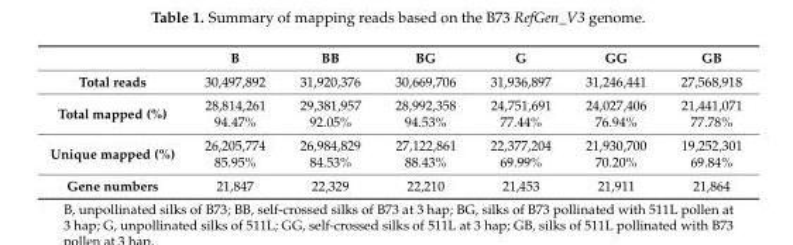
<table><thead><tr><td></td><td>B</td><td>BB</td><td>BG</td><td>G</td><td>GG</td><td>GB</td></tr></thead><tbody><tr><td>Total reads</td><td>30,497,892</td><td>31,920,376</td><td>30,669,706</td><td>31,936,897</td><td>31,246,441</td><td>27,568,918</td></tr><tr><td>Total mapped (%)</td><td>28,814,261 94.47%</td><td>29,381,957 92.05%</td><td>28,992,358 94.53%</td><td>24,751,691 77.44%</td><td>24,027,406 76.94%</td><td>21,441,071 77.78%</td></tr><tr><td>Unique mapped (%)</td><td>26,205,774 85.95%</td><td>26,984,829 84.53%</td><td>27,122,861 88.43%</td><td>22,377,204 69.99%</td><td>21,930,700 70.20%</td><td>19,252,301 69.84%</td></tr><tr><td>Gene numbers</td><td>21,847</td><td>22,329</td><td>22,210</td><td>21,453</td><td>21,911</td><td>21,864</td></tr></tbody></table>